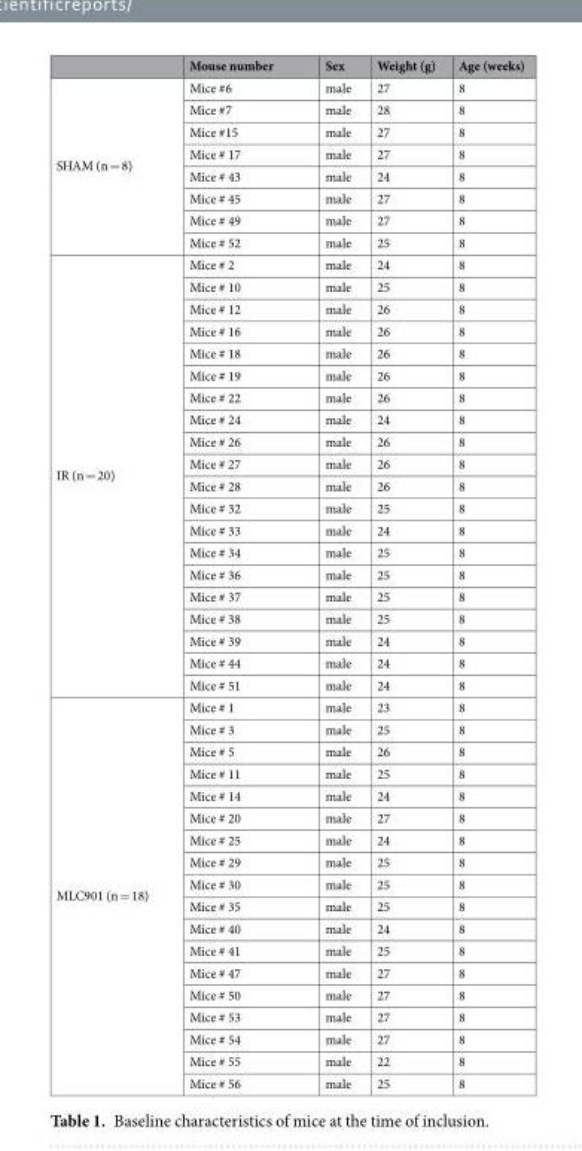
<table><thead><tr><td></td><td>Mouse number</td><td>Sex</td><td>Weight (g)</td><td>Age (weeks)</td></tr></thead><tbody><tr><td rowspan="8">SHAM (n = 8)</td><td>Mice #6</td><td>male</td><td>27</td><td>8</td></tr><tr><td>Mice #7</td><td>male</td><td>28</td><td>8</td></tr><tr><td>Mice #15</td><td>male</td><td>27</td><td>8</td></tr><tr><td>Mice # 17</td><td>male</td><td>27</td><td>8</td></tr><tr><td>Mice # 43</td><td>male</td><td>24</td><td>8</td></tr><tr><td>Mice # 45</td><td>male</td><td>27</td><td>8</td></tr><tr><td>Mice # 49</td><td>male</td><td>27</td><td>8</td></tr><tr><td>Mice # 52</td><td>male</td><td>25</td><td>8</td></tr><tr><td rowspan="20">IR (n = 20)</td><td>Mice # 2</td><td>male</td><td>24</td><td>8</td></tr><tr><td>Mice # 10</td><td>male</td><td>25</td><td>8</td></tr><tr><td>Mice # 12</td><td>male</td><td>26</td><td>8</td></tr><tr><td>Mice # 16</td><td>male</td><td>26</td><td>8</td></tr><tr><td>Mice # 18</td><td>male</td><td>26</td><td>8</td></tr><tr><td>Mice # 19</td><td>male</td><td>26</td><td>8</td></tr><tr><td>Mice # 22</td><td>male</td><td>26</td><td>8</td></tr><tr><td>Mice # 24</td><td>male</td><td>24</td><td>8</td></tr><tr><td>Mice # 26</td><td>male</td><td>26</td><td>8</td></tr><tr><td>Mice # 27</td><td>male</td><td>26</td><td>8</td></tr><tr><td>Mice # 28</td><td>male</td><td>26</td><td>8</td></tr><tr><td>Mice # 32</td><td>male</td><td>25</td><td>8</td></tr><tr><td>Mice # 33</td><td>male</td><td>24</td><td>8</td></tr><tr><td>Mice # 34</td><td>male</td><td>25</td><td>8</td></tr><tr><td>Mice # 36</td><td>male</td><td>25</td><td>8</td></tr><tr><td>Mice # 37</td><td>male</td><td>25</td><td>8</td></tr><tr><td>Mice # 38</td><td>male</td><td>25</td><td>8</td></tr><tr><td>Mice # 39</td><td>male</td><td>24</td><td>8</td></tr><tr><td>Mice # 44</td><td>male</td><td>24</td><td>8</td></tr><tr><td>Mice # 51</td><td>male</td><td>24</td><td>8</td></tr><tr><td rowspan="18">MLC901 (n = 18)</td><td>Mice # 1</td><td>male</td><td>23</td><td>8</td></tr><tr><td>Mice # 3</td><td>male</td><td>25</td><td>8</td></tr><tr><td>Mice # 5</td><td>male</td><td>26</td><td>8</td></tr><tr><td>Mice # 11</td><td>male</td><td>25</td><td>8</td></tr><tr><td>Mice # 14</td><td>male</td><td>24</td><td>8</td></tr><tr><td>Mice # 20</td><td>male</td><td>27</td><td>8</td></tr><tr><td>Mice # 25</td><td>male</td><td>24</td><td>8</td></tr><tr><td>Mice # 29</td><td>male</td><td>25</td><td>8</td></tr><tr><td>Mice # 30</td><td>male</td><td>25</td><td>8</td></tr><tr><td>Mice # 35</td><td>male</td><td>25</td><td>8</td></tr><tr><td>Mice # 40</td><td>male</td><td>24</td><td>8</td></tr><tr><td>Mice # 41</td><td>male</td><td>25</td><td>8</td></tr><tr><td>Mice # 47</td><td>male</td><td>27</td><td>8</td></tr><tr><td>Mice # 50</td><td>male</td><td>27</td><td>8</td></tr><tr><td>Mice # 53</td><td>male</td><td>27</td><td>8</td></tr><tr><td>Mice # 54</td><td>male</td><td>27</td><td>8</td></tr><tr><td>Mice # 55</td><td>male</td><td>22</td><td>8</td></tr><tr><td>Mice # 56</td><td>male</td><td>25</td><td>8</td></tr></tbody></table>